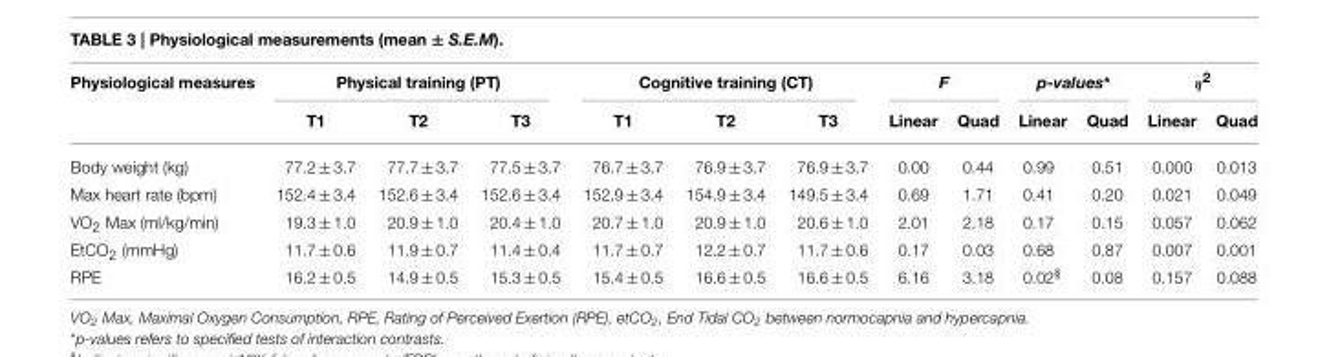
<table><thead><tr><td rowspan="2">Physiological measures</td><td colspan="3">Physical training (PT)</td><td colspan="3">Cognitive training (CT)</td><td colspan="2">F</td><td colspan="2">p-values*</td><td colspan="2">η<sup>2</sup></td></tr><tr><td>T1</td><td>T2</td><td>T3</td><td>T1</td><td>T2</td><td>T3</td><td>Linear</td><td>Quad</td><td>Linear</td><td>Quad</td><td>Linear</td><td>Quad</td></tr></thead><tbody><tr><td>Body weight (kg)</td><td>77.2 ± 3.7</td><td>77.7 ± 3.7</td><td>77.5 ± 3.7</td><td>76.7 ± 3.7</td><td>76.9 ± 3.7</td><td>76.9 ± 3.7</td><td>0.00</td><td>0.44</td><td>0.99</td><td>0.51</td><td>0.000</td><td>0.013</td></tr><tr><td>Max heart rate (bpm)</td><td>152.4 ± 3.4</td><td>152.6 ± 3.4</td><td>152.6 ± 3.4</td><td>152.9 ± 3.4</td><td>154.9 ± 3.4</td><td>149.5 ± 3.4</td><td>0.69</td><td>1.71</td><td>0.41</td><td>0.20</td><td>0.021</td><td>0.049</td></tr><tr><td>VO2 Max (ml/kg/min)</td><td>19.3 ± 1.0</td><td>20.9 ± 1.0</td><td>20.4 ± 1.0</td><td>20.7 ± 1.0</td><td>20.9 ± 1.0</td><td>20.6 ± 1.0</td><td>2.01</td><td>2.18</td><td>0.17</td><td>0.15</td><td>0.057</td><td>0.062</td></tr><tr><td>EtCO2 (mmHg)</td><td>11.7 ± 0.6</td><td>11.9 ± 0.7</td><td>11.4 ± 0.4</td><td>11.7 ± 0.7</td><td>12.2 ± 0.7</td><td>11.7 ± 0.6</td><td>0.17</td><td>0.03</td><td>0.68</td><td>0.87</td><td>0.007</td><td>0.001</td></tr><tr><td>RPE</td><td>16.2 ± 0.5</td><td>14.9 ± 0.5</td><td>15.3 ± 0.5</td><td>15.4 ± 0.5</td><td>16.6 ± 0.5</td><td>16.6 ± 0.5</td><td>6.16</td><td>3.18</td><td>0.02<sup>§</sup></td><td>0.08</td><td>0.157</td><td>0.088</td></tr></tbody></table>